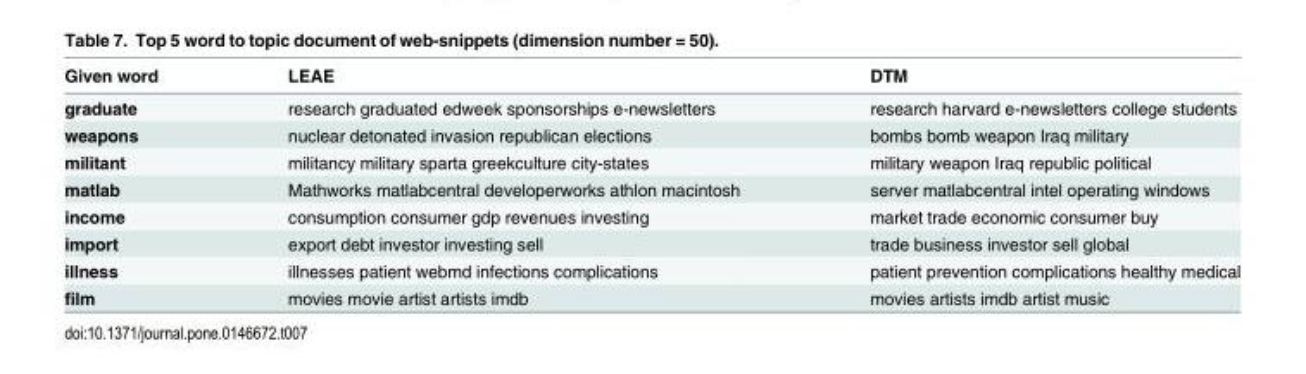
<table><thead><tr><td>Given word</td><td>LEAE</td><td>DTM</td></tr></thead><tbody><tr><td>graduate</td><td>research graduated edweek sponsorships e-newsletters</td><td>research harvard e-newsletters college students</td></tr><tr><td>weapons</td><td>nuclear detonated invasion republican elections</td><td>bombs bomb weapon Iraq military</td></tr><tr><td>militant</td><td>militancy military sparta greekculture city-states</td><td>military weapon Iraq republic political</td></tr><tr><td>matlab</td><td>Mathworks matlabcentral developerworks athlon macintosh</td><td>server matlabcentral intel operating windows</td></tr><tr><td>income</td><td>consumption consumer gdp revenues investing</td><td>market trade economic consumer buy</td></tr><tr><td>import</td><td>export debt investor investing sell</td><td>trade business investor sell global</td></tr><tr><td>illness</td><td>illnesses patient webmd infections complications</td><td>patient prevention complications healthy medical</td></tr><tr><td>film</td><td>movies movie artist artists imdb</td><td>movies artists imdb artist music</td></tr></tbody></table>